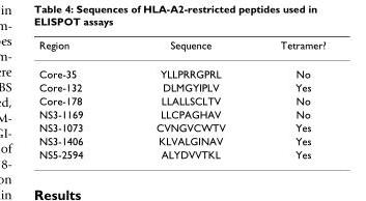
<table><thead><tr><td>Region</td><td>Sequence</td><td>Tetramer?</td></tr></thead><tbody><tr><td>Core-35</td><td>YLLPRRGPRL</td><td>No</td></tr><tr><td>Core-132</td><td>DLMGYIPLV</td><td>Yes</td></tr><tr><td>Core-178</td><td>LLALLSCLTV</td><td>No</td></tr><tr><td>NS3-1169</td><td>LLCPAGHAV</td><td>No</td></tr><tr><td>NS3-1073</td><td>CVNGVCWTV</td><td>Yes</td></tr><tr><td>NS3-1406</td><td>KLVALGINAV</td><td>Yes</td></tr><tr><td>NS5-2594</td><td>ALYDVVTKL</td><td>Yes</td></tr></tbody></table>